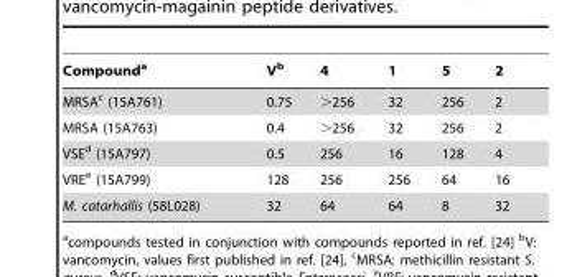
<table><thead><tr><td>Compound<sup>a</sup></td><td>V<sup>b</sup></td><td>4</td><td>1</td><td>5</td><td>2</td></tr></thead><tbody><tr><td>MRSA<sup>c</sup> (15A761)</td><td>0.75</td><td>&gt;256</td><td>32</td><td>256</td><td>2</td></tr><tr><td>MRSA (15A763)</td><td>0.4</td><td>&gt;256</td><td>32</td><td>256</td><td>2</td></tr><tr><td>VSE<sup>d</sup> (15A797)</td><td>0.5</td><td>256</td><td>16</td><td>128</td><td>4</td></tr><tr><td>VRE<sup>e</sup> (15A799)</td><td>128</td><td>256</td><td>256</td><td>64</td><td>16</td></tr><tr><td>M. catarhallis (58L028)</td><td>32</td><td>64</td><td>64</td><td>8</td><td>32</td></tr></tbody></table>